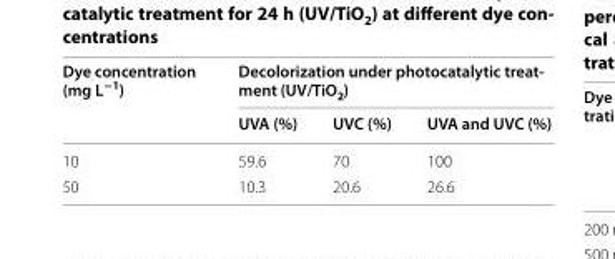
<table><thead><tr><td rowspan="2">Dye concentration (mg L<sup>−1</sup>)</td><td colspan="3">Decolorization under photocatalytic treat‑ ment (UV/TiO2)</td></tr><tr><td>UVA (%)</td><td>UVC (%)</td><td>UVA and UVC (%)</td></tr></thead><tbody><tr><td>10</td><td>59.6</td><td>70</td><td>100</td></tr><tr><td>50</td><td>10.3</td><td>20.6</td><td>26.6</td></tr></tbody></table>